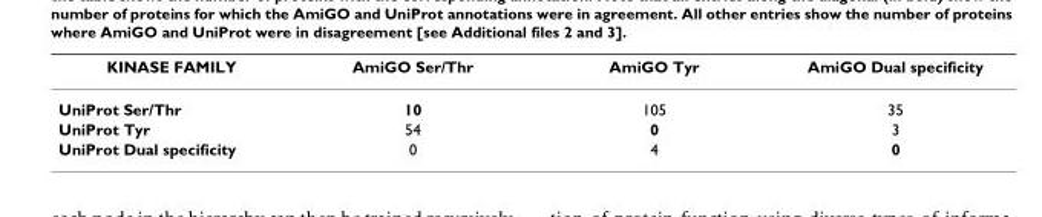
<table><thead><tr><td>KINASE FAMILY</td><td>AmiGO Ser/Thr</td><td>AmiGO Tyr</td><td>AmiGO Dual specificity</td></tr></thead><tbody><tr><td>UniProt Ser/Thr</td><td>10</td><td>105</td><td>35</td></tr><tr><td>UniProt Tyr</td><td>54</td><td>0</td><td>3</td></tr><tr><td>UniProt Dual specificity</td><td>0</td><td>4</td><td>0</td></tr></tbody></table>